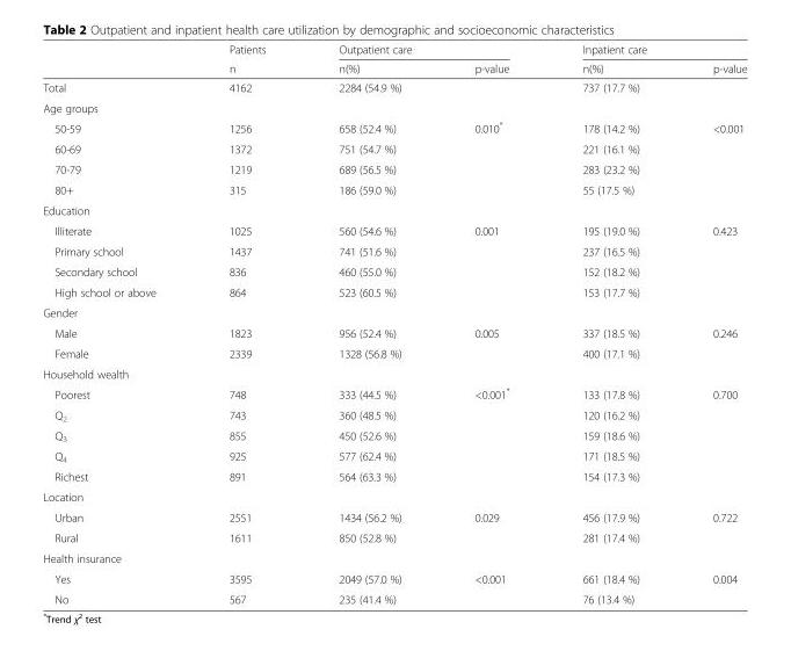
<table><thead><tr><td rowspan="2"></td><td rowspan="2">Patients n</td><td colspan="2">Outpatient care</td><td colspan="2">Inpatient care</td></tr><tr><td>n(%)</td><td>p-value</td><td>n(%)</td><td>p-value</td></tr></thead><tbody><tr><td>Total</td><td>4162</td><td>2284 (54.9 %)</td><td></td><td>737 (17.7 %)</td><td></td></tr><tr><td colspan="6">Age groups</td></tr><tr><td>50-59</td><td>1256</td><td>658 (52.4 %)</td><td>0.010*</td><td>178 (14.2 %)</td><td>&lt;0.001</td></tr><tr><td>60-69</td><td>1372</td><td>751 (54.7 %)</td><td></td><td>221 (16.1 %)</td><td></td></tr><tr><td>70-79</td><td>1219</td><td>689 (56.5 %)</td><td></td><td>283 (23.2 %)</td><td></td></tr><tr><td>80+</td><td>315</td><td>186 (59.0 %)</td><td></td><td>55 (17.5 %)</td><td></td></tr><tr><td colspan="6">Education</td></tr><tr><td>Illiterate</td><td>1025</td><td>560 (54.6 %)</td><td>0.001</td><td>195 (19.0 %)</td><td>0.423</td></tr><tr><td>Primary school</td><td>1437</td><td>741 (51.6 %)</td><td></td><td>237 (16.5 %)</td><td></td></tr><tr><td>Secondary school</td><td>836</td><td>460 (55.0 %)</td><td></td><td>152 (18.2 %)</td><td></td></tr><tr><td>High school or above</td><td>864</td><td>523 (60.5 %)</td><td></td><td>153 (17.7 %)</td><td></td></tr><tr><td colspan="6">Gender</td></tr><tr><td>Male</td><td>1823</td><td>956 (52.4 %)</td><td>0.005</td><td>337 (18.5 %)</td><td>0.246</td></tr><tr><td>Female</td><td>2339</td><td>1328 (56.8 %)</td><td></td><td>400 (17.1 %)</td><td></td></tr><tr><td colspan="6">Household wealth</td></tr><tr><td>Poorest</td><td>748</td><td>333 (44.5 %)</td><td>&lt;0.001*</td><td>133 (17.8 %)</td><td>0.700</td></tr><tr><td>Q<sub>2</sub></td><td>743</td><td>360 (48.5 %)</td><td></td><td>120 (16.2 %)</td><td></td></tr><tr><td>Q<sub>3</sub></td><td>855</td><td>450 (52.6 %)</td><td></td><td>159 (18.6 %)</td><td></td></tr><tr><td>Q<sub>4</sub></td><td>925</td><td>577 (62.4 %)</td><td></td><td>171 (18.5 %)</td><td></td></tr><tr><td>Richest</td><td>891</td><td>564 (63.3 %)</td><td></td><td>154 (17.3 %)</td><td></td></tr><tr><td colspan="6">Location</td></tr><tr><td>Urban</td><td>2551</td><td>1434 (56.2 %)</td><td>0.029</td><td>456 (17.9 %)</td><td>0.722</td></tr><tr><td>Rural</td><td>1611</td><td>850 (52.8 %)</td><td></td><td>281 (17.4 %)</td><td></td></tr><tr><td colspan="6">Health insurance</td></tr><tr><td>Yes</td><td>3595</td><td>2049 (57.0 %)</td><td>&lt;0.001</td><td>661 (18.4 %)</td><td>0.004</td></tr><tr><td>No</td><td>567</td><td>235 (41.4 %)</td><td></td><td>76 (13.4 %)</td><td></td></tr></tbody></table>